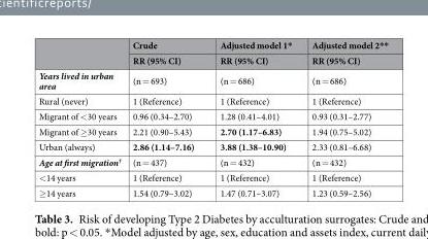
<table><thead><tr><td rowspan="2"></td><td rowspan="2">Crude RR (95% CI)</td><td rowspan="2">Adjusted model 1* RR (95% CI)</td><td rowspan="2">Adjusted model 2** RR (95% CI)</td></tr><tr></tr></thead><tbody><tr><td>Years lived in urban area</td><td>(n = 693)</td><td>(n = 686)</td><td>(n = 686)</td></tr><tr><td>Rural (never)</td><td>1 (Reference)</td><td>1 (Reference)</td><td>1 (Reference)</td></tr><tr><td>Migrant of &lt;30 years</td><td>0.96 (0.34–2.70)</td><td>1.28 (0.41–4.01)</td><td>0.93 (0.31–2.77)</td></tr><tr><td>Migrant of ≥30 years</td><td>2.21 (0.90–5.43)</td><td>2.70 (1.17–6.83)</td><td>1.94 (0.75–5.02)</td></tr><tr><td>Urban (always)</td><td>2.86 (1.14–7.16)</td><td>3.88 (1.38–10.90)</td><td>2.33 (0.81–6.68)</td></tr><tr><td>Age at first migration<sup>†</sup></td><td>(n = 437)</td><td>(n = 432)</td><td>(n = 432)</td></tr><tr><td>&lt;14 years</td><td>1 (Reference)</td><td>1 (Reference)</td><td>1 (Reference)</td></tr><tr><td>≥14 years</td><td>1.54 (0.79–3.02)</td><td>1.47 (0.71–3.07)</td><td>1.23 (0.59–2.56)</td></tr></tbody></table>